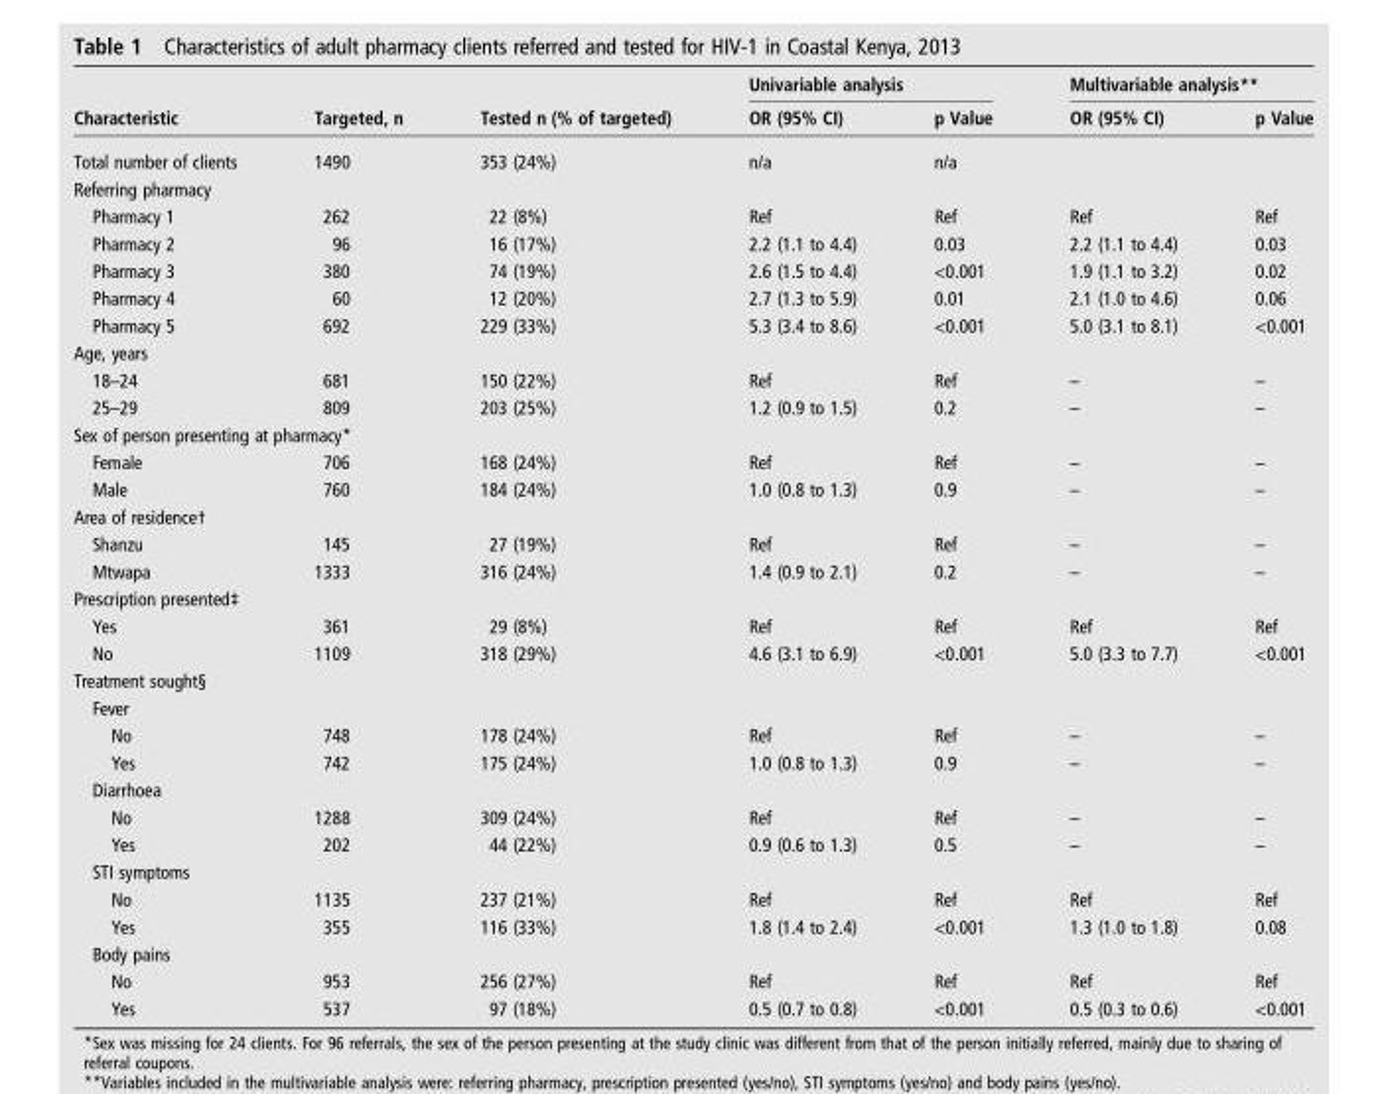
<table><thead><tr><td rowspan="2">Characteristic</td><td rowspan="2">Targeted, n</td><td rowspan="2">Tested n (% of targeted)</td><td colspan="2">Univariable analysis</td><td colspan="2">Multivariable analysis**</td></tr><tr><td>OR (95% CI)</td><td>p Value</td><td>OR (95% CI)</td><td>p Value</td></tr></thead><tbody><tr><td>Total number of clients</td><td>1490</td><td>353 (24%)</td><td>n/a</td><td>n/a</td><td></td><td></td></tr><tr><td colspan="7">Referring pharmacy</td></tr><tr><td>Pharmacy 1</td><td>262</td><td>22 (8%)</td><td>Ref</td><td>Ref</td><td>Ref</td><td>Ref</td></tr><tr><td>Pharmacy 2</td><td>96</td><td>16 (17%)</td><td>2.2 (1.1 to 4.4)</td><td>0.03</td><td>2.2 (1.1 to 4.4)</td><td>0.03</td></tr><tr><td>Pharmacy 3</td><td>380</td><td>74 (19%)</td><td>2.6 (1.5 to 4.4)</td><td>&lt;0.001</td><td>1.9 (1.1 to 3.2)</td><td>0.02</td></tr><tr><td>Pharmacy 4</td><td>60</td><td>12 (20%)</td><td>2.7 (1.3 to 5.9)</td><td>0.01</td><td>2.1 (1.0 to 4.6)</td><td>0.06</td></tr><tr><td>Pharmacy 5</td><td>692</td><td>229 (33%)</td><td>5.3 (3.4 to 8.6)</td><td>&lt;0.001</td><td>5.0 (3.1 to 8.1)</td><td>&lt;0.001</td></tr><tr><td colspan="7">Age, years</td></tr><tr><td>18–24</td><td>681</td><td>150 (22%)</td><td>Ref</td><td>Ref</td><td>–</td><td>–</td></tr><tr><td>25–29</td><td>809</td><td>203 (25%)</td><td>1.2 (0.9 to 1.5)</td><td>0.2</td><td>–</td><td>–</td></tr><tr><td colspan="7">Sex of person presenting at pharmacy*</td></tr><tr><td>Female</td><td>706</td><td>168 (24%)</td><td>Ref</td><td>Ref</td><td>–</td><td>–</td></tr><tr><td>Male</td><td>760</td><td>184 (24%)</td><td>1.0 (0.8 to 1.3)</td><td>0.9</td><td>–</td><td>–</td></tr><tr><td colspan="7">Area of residence†</td></tr><tr><td>Shanzu</td><td>145</td><td>27 (19%)</td><td>Ref</td><td>Ref</td><td>–</td><td>–</td></tr><tr><td>Mtwapa</td><td>1333</td><td>316 (24%)</td><td>1.4 (0.9 to 2.1)</td><td>0.2</td><td>–</td><td>–</td></tr><tr><td colspan="7">Prescription presented‡</td></tr><tr><td>Yes</td><td>361</td><td>29 (8%)</td><td>Ref</td><td>Ref</td><td>Ref</td><td>Ref</td></tr><tr><td>No</td><td>1109</td><td>318 (29%)</td><td>4.6 (3.1 to 6.9)</td><td>&lt;0.001</td><td>5.0 (3.3 to 7.7)</td><td>&lt;0.001</td></tr><tr><td colspan="7">Treatment sought§</td></tr><tr><td colspan="7">Fever</td></tr><tr><td>No</td><td>748</td><td>178 (24%)</td><td>Ref</td><td>Ref</td><td>–</td><td>–</td></tr><tr><td>Yes</td><td>742</td><td>175 (24%)</td><td>1.0 (0.8 to 1.3)</td><td>0.9</td><td>–</td><td>–</td></tr><tr><td colspan="7">Diarrhoea</td></tr><tr><td>No</td><td>1288</td><td>309 (24%)</td><td>Ref</td><td>Ref</td><td>–</td><td>–</td></tr><tr><td>Yes</td><td>202</td><td>44 (22%)</td><td>0.9 (0.6 to 1.3)</td><td>0.5</td><td>–</td><td>–</td></tr><tr><td colspan="7">STI symptoms</td></tr><tr><td>No</td><td>1135</td><td>237 (21%)</td><td>Ref</td><td>Ref</td><td>Ref</td><td>Ref</td></tr><tr><td>Yes</td><td>355</td><td>116 (33%)</td><td>1.8 (1.4 to 2.4)</td><td>&lt;0.001</td><td>1.3 (1.0 to 1.8)</td><td>0.08</td></tr><tr><td colspan="7">Body pains</td></tr><tr><td>No</td><td>953</td><td>256 (27%)</td><td>Ref</td><td>Ref</td><td>Ref</td><td>Ref</td></tr><tr><td>Yes</td><td>537</td><td>97 (18%)</td><td>0.5 (0.7 to 0.8)</td><td>&lt;0.001</td><td>0.5 (0.3 to 0.6)</td><td>&lt;0.001</td></tr></tbody></table>